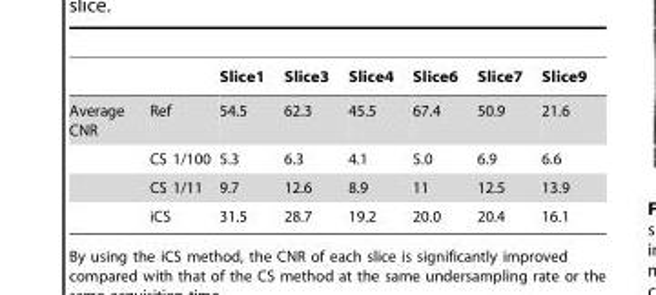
<table><thead><tr><td></td><td></td><td>Slice1</td><td>Slice3</td><td>Slice4</td><td>Slice6</td><td>Slice7</td><td>Slice9</td></tr></thead><tbody><tr><td rowspan="4">Average CNR</td><td>Ref</td><td>54.5</td><td>62.3</td><td>45.5</td><td>67.4</td><td>50.9</td><td>21.6</td></tr><tr><td>CS 1/100</td><td>5.3</td><td>6.3</td><td>4.1</td><td>5.0</td><td>6.9</td><td>6.6</td></tr><tr><td>CS 1/11</td><td>9.7</td><td>12.6</td><td>8.9</td><td>11</td><td>12.5</td><td>13.9</td></tr><tr><td>iCS</td><td>31.5</td><td>28.7</td><td>19.2</td><td>20.0</td><td>20.4</td><td>16.1</td></tr></tbody></table>